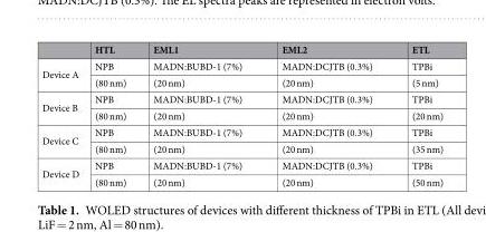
<table><thead><tr><td></td><td>HTL</td><td>EML1</td><td>EML2</td><td>ETL</td></tr></thead><tbody><tr><td rowspan="2">Device A</td><td>NPB</td><td>MADN:BUBD-1 (7%)</td><td>MADN:DCJTB (0.3%)</td><td>TPBi</td></tr><tr><td>(80 nm)</td><td>(20 nm)</td><td>(20 nm)</td><td>(5 nm)</td></tr><tr><td rowspan="2">Device B</td><td>NPB</td><td>MADN:BUBD-1 (7%)</td><td>MADN:DCJTB (0.3%)</td><td>TPBi</td></tr><tr><td>(80 nm)</td><td>(20 nm)</td><td>(20 nm)</td><td>(20 nm)</td></tr><tr><td rowspan="2">Device C</td><td>NPB</td><td>MADN:BUBD-1 (7%)</td><td>MADN:DCJTB (0.3%)</td><td>TPBi</td></tr><tr><td>(80 nm)</td><td>(20 nm)</td><td>(20 nm)</td><td>(35 nm)</td></tr><tr><td rowspan="2">Device D</td><td>NPB</td><td>MADN:BUBD-1 (7%)</td><td>MADN:DCJTB (0.3%)</td><td>TPBi</td></tr><tr><td>(80 nm)</td><td>(20 nm)</td><td>(20 nm)</td><td>(50 nm)</td></tr></tbody></table>